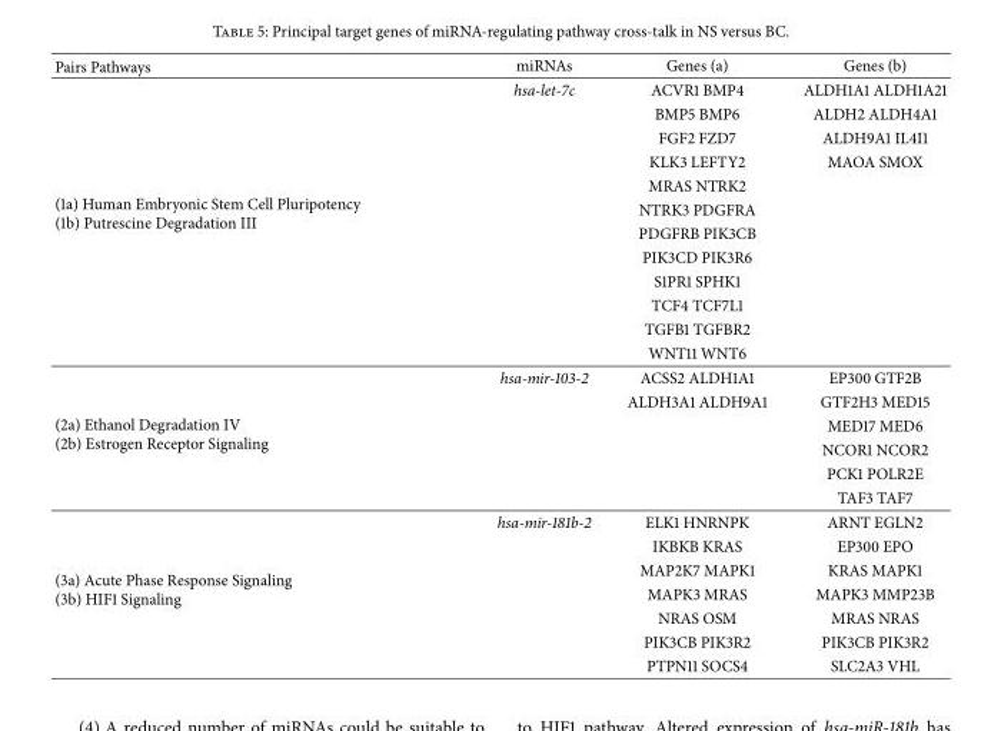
<table><thead><tr><td>Pairs Pathways</td><td>miRNAs</td><td>Genes (a)</td><td>Genes (b)</td></tr></thead><tbody><tr><td rowspan="12">(1a) Human Embryonic Stem Cell Pluripotency (1b) Putrescine Degradation III</td><td>hsa-let-7c</td><td>ACVR1 BMP4</td><td>ALDH1A1 ALDH1A21</td></tr><tr><td></td><td>BMP5 BMP6</td><td>ALDH2 ALDH4A1</td></tr><tr><td></td><td>FGF2 FZD7</td><td>ALDH9A1 IL4I1</td></tr><tr><td></td><td>KLK3 LEFTY2</td><td>MAOA SMOX</td></tr><tr><td></td><td>MRAS NTRK2</td><td></td></tr><tr><td></td><td>NTRK3 PDGFRA</td><td></td></tr><tr><td></td><td>PDGFRB PIK3CB</td><td></td></tr><tr><td></td><td>PIK3CD PIK3R6</td><td></td></tr><tr><td></td><td>S1PR1 SPHK1</td><td></td></tr><tr><td></td><td>TCF4 TCF7L1</td><td></td></tr><tr><td></td><td>TGFB1 TGFBR2</td><td></td></tr><tr><td></td><td>WNT11 WNT6</td><td></td></tr><tr><td rowspan="6">(2a) Ethanol Degradation IV (2b) Estrogen Receptor Signaling</td><td>hsa-mir-103-2</td><td>ACSS2 ALDH1A1</td><td>EP300 GTF2B</td></tr><tr><td></td><td>ALDH3A1 ALDH9A1</td><td>GTF2H3 MED15</td></tr><tr><td></td><td></td><td>MED17 MED6</td></tr><tr><td></td><td></td><td>NCOR1 NCOR2</td></tr><tr><td></td><td></td><td>PCK1 POLR2E</td></tr><tr><td></td><td></td><td>TAF3 TAF7</td></tr><tr><td rowspan="7">(3a) Acute Phase Response Signaling (3b) HIF1 Signaling</td><td>hsa-mir-181b-2</td><td>ELK1 HNRNPK</td><td>ARNT EGLN2</td></tr><tr><td></td><td>IKBKB KRAS</td><td>EP300 EPO</td></tr><tr><td></td><td>MAP2K7 MAPK1</td><td>KRAS MAPK1</td></tr><tr><td></td><td>MAPK3 MRAS</td><td>MAPK3 MMP23B</td></tr><tr><td></td><td>NRAS OSM</td><td>MRAS NRAS</td></tr><tr><td></td><td>PIK3CB PIK3R2</td><td>PIK3CB PIK3R2</td></tr><tr><td></td><td>PTPN11 SOCS4</td><td>SLC2A3 VHL</td></tr></tbody></table>